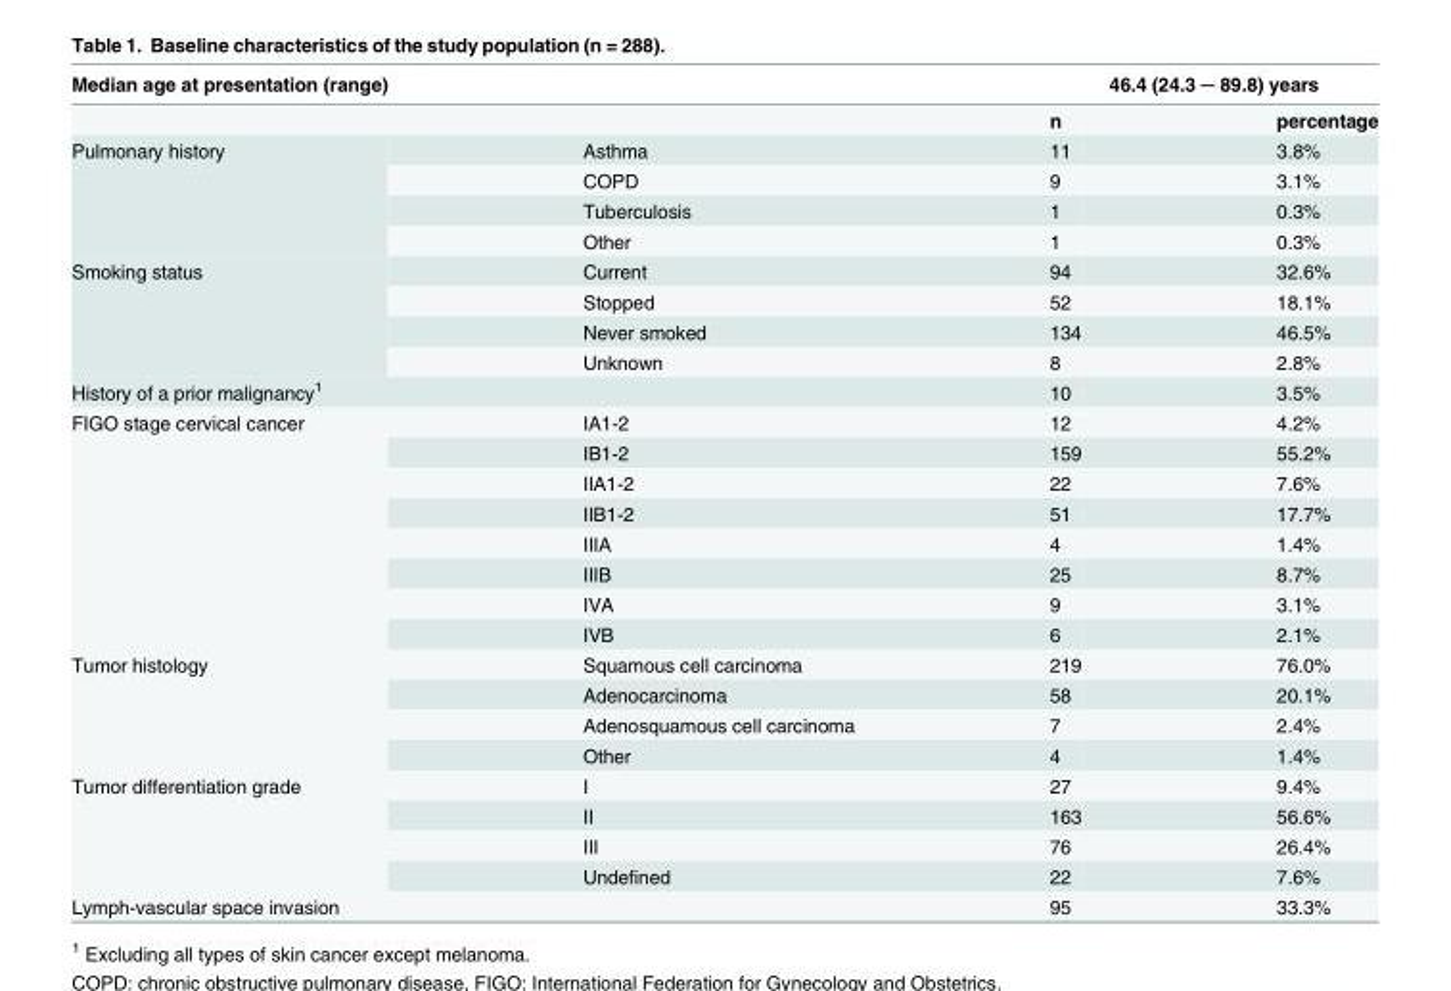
<table><thead><tr><td rowspan="2">Median age at presentation (range)</td><td rowspan="2"></td><td colspan="2">46.4 (24.3 ─ 89.8) years</td></tr><tr><td>n</td><td>percentage</td></tr></thead><tbody><tr><td rowspan="4">Pulmonary history</td><td>Asthma</td><td>11</td><td>3.8%</td></tr><tr><td>COPD</td><td>9</td><td>3.1%</td></tr><tr><td>Tuberculosis</td><td>1</td><td>0.3%</td></tr><tr><td>Other</td><td>1</td><td>0.3%</td></tr><tr><td rowspan="4">Smoking status</td><td>Current</td><td>94</td><td>32.6%</td></tr><tr><td>Stopped</td><td>52</td><td>18.1%</td></tr><tr><td>Never smoked</td><td>134</td><td>46.5%</td></tr><tr><td>Unknown</td><td>8</td><td>2.8%</td></tr><tr><td>History of a prior malignancy<sup>1</sup></td><td></td><td>10</td><td>3.5%</td></tr><tr><td rowspan="8">FIGO stage cervical cancer</td><td>IA1-2</td><td>12</td><td>4.2%</td></tr><tr><td>IB1-2</td><td>159</td><td>55.2%</td></tr><tr><td>IIA1-2</td><td>22</td><td>7.6%</td></tr><tr><td>IIB1-2</td><td>51</td><td>17.7%</td></tr><tr><td>IIIA</td><td>4</td><td>1.4%</td></tr><tr><td>IIIB</td><td>25</td><td>8.7%</td></tr><tr><td>IVA</td><td>9</td><td>3.1%</td></tr><tr><td>IVB</td><td>6</td><td>2.1%</td></tr><tr><td rowspan="4">Tumor histology</td><td>Squamous cell carcinoma</td><td>219</td><td>76.0%</td></tr><tr><td>Adenocarcinoma</td><td>58</td><td>20.1%</td></tr><tr><td>Adenosquamous cell carcinoma</td><td>7</td><td>2.4%</td></tr><tr><td>Other</td><td>4</td><td>1.4%</td></tr><tr><td rowspan="4">Tumor differentiation grade</td><td>I</td><td>27</td><td>9.4%</td></tr><tr><td>II</td><td>163</td><td>56.6%</td></tr><tr><td>III</td><td>76</td><td>26.4%</td></tr><tr><td>Undefined</td><td>22</td><td>7.6%</td></tr><tr><td>Lymph-vascular space invasion</td><td></td><td>95</td><td>33.3%</td></tr></tbody></table>